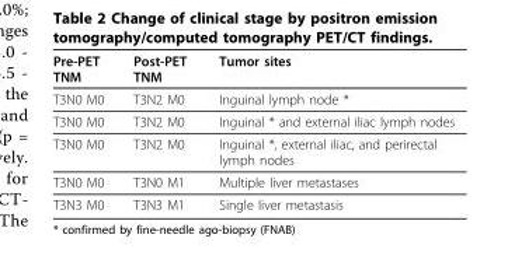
<table><thead><tr><td>Pre-PET TNM</td><td>Post-PET TNM</td><td>Tumor sites</td></tr></thead><tbody><tr><td>T3N0 M0</td><td>T3N2 M0</td><td>Inguinal lymph node *</td></tr><tr><td>T3N0 M0</td><td>T3N2 M0</td><td>Inguinal * and external iliac lymph nodes</td></tr><tr><td>T3N0 M0</td><td>T3N2 M0</td><td>Inguinal *, external iliac, and perirectal lymph nodes</td></tr><tr><td>T3N0 M0</td><td>T3N0 M1</td><td>Multiple liver metastases</td></tr><tr><td>T3N3 M0</td><td>T3N3 M1</td><td>Single liver metastasis</td></tr></tbody></table>